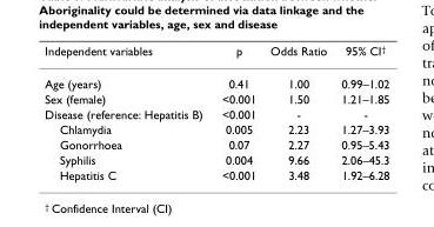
<table><thead><tr><td>Independent variables</td><td>p</td><td>Odds Ratio</td><td>95% CI<sup>†</sup></td></tr></thead><tbody><tr><td>Age (years)</td><td>0.41</td><td>1.00</td><td>0.99–1.02</td></tr><tr><td>Sex (female)</td><td>&lt;0.001</td><td>1.50</td><td>1.21–1.85</td></tr><tr><td>Disease (reference: Hepatitis B)</td><td>&lt;0.001</td><td>-</td><td>-</td></tr><tr><td>Chlamydia</td><td>0.005</td><td>2.23</td><td>1.27–3.93</td></tr><tr><td>Gonorrhoea</td><td>0.07</td><td>2.27</td><td>0.95–5.43</td></tr><tr><td>Syphilis</td><td>0.004</td><td>9.66</td><td>2.06–45.3</td></tr><tr><td>Hepatitis C</td><td>&lt;0.001</td><td>3.48</td><td>1.92–6.28</td></tr></tbody></table>